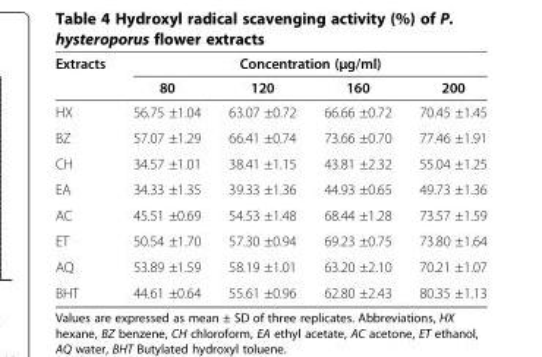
<table><thead><tr><td rowspan="2">Extracts</td><td colspan="4">Concentration (μg/ml)</td></tr><tr><td>80</td><td>120</td><td>160</td><td>200</td></tr></thead><tbody><tr><td>HX</td><td>56.75 ±1.04</td><td>63.07 ±0.72</td><td>66.66 ±0.72</td><td>70.45 ±1.45</td></tr><tr><td>BZ</td><td>57.07 ±1.29</td><td>66.41 ±0.74</td><td>73.66 ±0.70</td><td>77.46 ±1.91</td></tr><tr><td>CH</td><td>34.57 ±1.01</td><td>38.41 ±1.15</td><td>43.81 ±2.32</td><td>55.04 ±1.25</td></tr><tr><td>EA</td><td>34.33 ±1.35</td><td>39.33 ±1.36</td><td>44.93 ±0.65</td><td>49.73 ±1.36</td></tr><tr><td>AC</td><td>45.51 ±0.69</td><td>54.53 ±1.48</td><td>68.44 ±1.28</td><td>73.57 ±1.59</td></tr><tr><td>ET</td><td>50.54 ±1.70</td><td>57.30 ±0.94</td><td>69.23 ±0.75</td><td>73.80 ±1.64</td></tr><tr><td>AQ</td><td>53.89 ±1.59</td><td>58.19 ±1.01</td><td>63.20 ±2.10</td><td>70.21 ±1.07</td></tr><tr><td>BHT</td><td>44.61 ±0.64</td><td>55.61 ±0.96</td><td>62.80 ±2.43</td><td>80.35 ±1.13</td></tr></tbody></table>